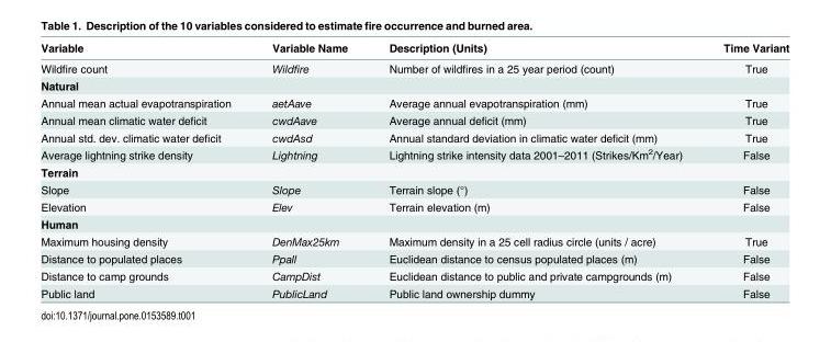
<table><thead><tr><td>Variable</td><td>Variable Name</td><td>Description (Units)</td><td>Time Variant</td></tr></thead><tbody><tr><td>Wildfire count</td><td>Wildfire</td><td>Number of wildfires in a 25 year period (count)</td><td>True</td></tr><tr><td colspan="4">Natural</td></tr><tr><td>Annual mean actual evapotranspiration</td><td>aetAave</td><td>Average annual evapotranspiration (mm)</td><td>True</td></tr><tr><td>Annual mean climatic water deficit</td><td>cwdAave</td><td>Average annual deficit (mm)</td><td>True</td></tr><tr><td>Annual std. dev. climatic water deficit</td><td>cwdAsd</td><td>Annual standard deviation in climatic water deficit (mm)</td><td>True</td></tr><tr><td>Average lightning strike density</td><td>Lightning</td><td>Lightning strike intensity data 2001–2011 (Strikes/Km<sup>2</sup>/Year)</td><td>False</td></tr><tr><td colspan="4">Terrain</td></tr><tr><td>Slope</td><td>Slope</td><td>Terrain slope (°)</td><td>False</td></tr><tr><td>Elevation</td><td>Elev</td><td>Terrain elevation (m)</td><td>False</td></tr><tr><td colspan="4">Human</td></tr><tr><td>Maximum housing density</td><td>DenMax25km</td><td>Maximum density in a 25 cell radius circle (units / acre)</td><td>True</td></tr><tr><td>Distance to populated places</td><td>Ppall</td><td>Euclidean distance to census populated places (m)</td><td>False</td></tr><tr><td>Distance to camp grounds</td><td>CampDist</td><td>Euclidean distance to public and private campgrounds (m)</td><td>False</td></tr><tr><td>Public land</td><td>PublicLand</td><td>Public land ownership dummy</td><td>False</td></tr></tbody></table>